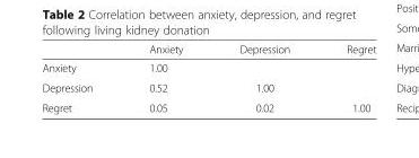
<table><thead><tr><td></td><td>Anxiety</td><td>Depression</td><td>Regret</td></tr></thead><tbody><tr><td>Anxiety</td><td>1.00</td><td></td><td></td></tr><tr><td>Depression</td><td>0.52</td><td>1.00</td><td></td></tr><tr><td>Regret</td><td>0.05</td><td>0.02</td><td>1.00</td></tr></tbody></table>